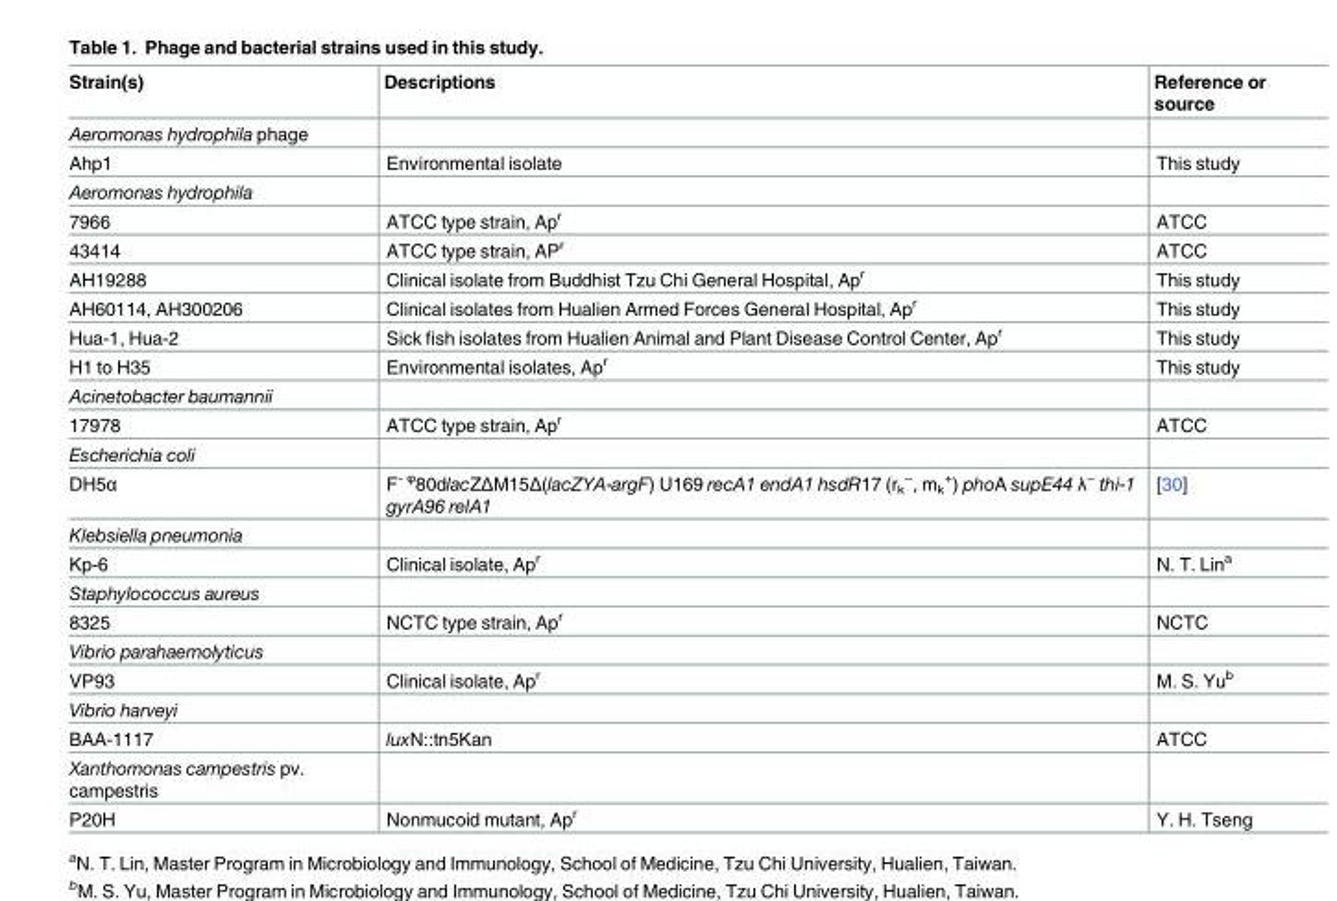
<table><thead><tr><td>Strain(s)</td><td>Descriptions</td><td>Reference or source</td></tr></thead><tbody><tr><td colspan="3">Aeromonas hydrophila phage</td></tr><tr><td>Ahp1</td><td>Environmental isolate</td><td>This study</td></tr><tr><td colspan="3">Aeromonas hydrophila</td></tr><tr><td>7966</td><td>ATCC type strain, Ap<sup>r</sup></td><td>ATCC</td></tr><tr><td>43414</td><td>ATCC type strain, AP<sup>r</sup></td><td>ATCC</td></tr><tr><td>AH19288</td><td>Clinical isolate from Buddhist Tzu Chi General Hospital, Ap<sup>r</sup></td><td>This study</td></tr><tr><td>AH60114, AH300206</td><td>Clinical isolates from Hualien Armed Forces General Hospital, Ap<sup>r</sup></td><td>This study</td></tr><tr><td>Hua-1, Hua-2</td><td>Sick fish isolates from Hualien Animal and Plant Disease Control Center, Ap<sup>r</sup></td><td>This study</td></tr><tr><td>H1 to H35</td><td>Environmental isolates, Ap<sup>r</sup></td><td>This study</td></tr><tr><td colspan="3">Acinetobacter baumannii</td></tr><tr><td>17978</td><td>ATCC type strain, Ap<sup>r</sup></td><td>ATCC</td></tr><tr><td colspan="3">Escherichia coli</td></tr><tr><td>DH5α</td><td>F<sup>- φ</sup>80dlacZΔM15Δ(lacZYA-argF) U169 recA1 endA1 hsdR17 (r<sub>k</sub> <sup>−</sup>, m<sub>k</sub> <sup>+</sup>) phoA supE44 λ<sup>−</sup> thi-1 gyrA96 relA1</td><td>[30]</td></tr><tr><td colspan="3">Klebsiella pneumonia</td></tr><tr><td>Kp-6</td><td>Clinical isolate, Ap<sup>r</sup></td><td>N. T. Lin<sup>a</sup></td></tr><tr><td colspan="3">Staphylococcus aureus</td></tr><tr><td>8325</td><td>NCTC type strain, Ap<sup>r</sup></td><td>NCTC</td></tr><tr><td colspan="3">Vibrio parahaemolyticus</td></tr><tr><td>VP93</td><td>Clinical isolate, Ap<sup>r</sup></td><td>M. S. Yu<sup>b</sup></td></tr><tr><td colspan="3">Vibrio harveyi</td></tr><tr><td>BAA-1117</td><td>luxN::tn5Kan</td><td>ATCC</td></tr><tr><td colspan="3">Xanthomonas campestris pv. campestris</td></tr><tr><td>P20H</td><td>Nonmucoid mutant, Ap<sup>r</sup></td><td>Y. H. Tseng</td></tr></tbody></table>